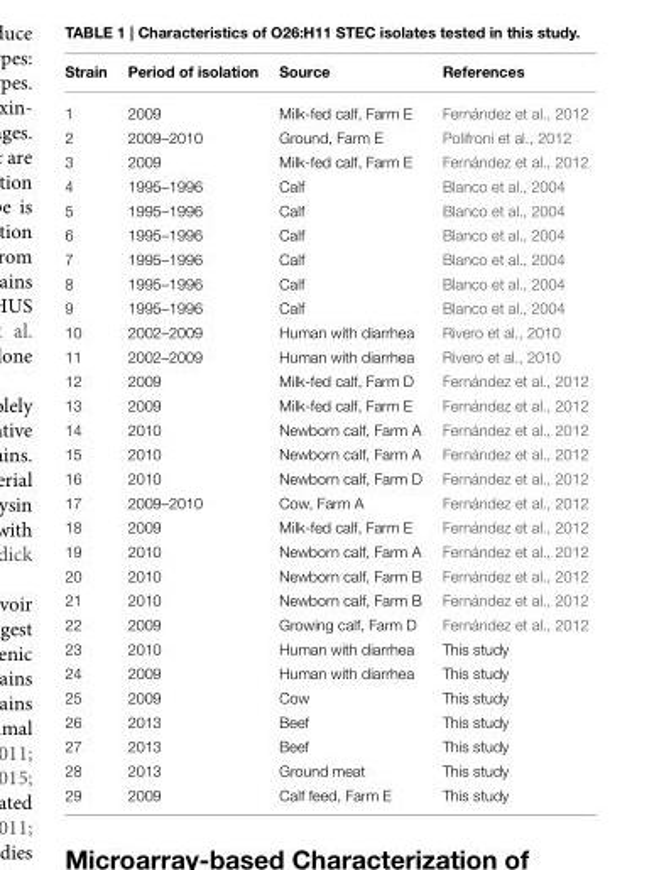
<table><thead><tr><td>Strain</td><td>Period of isolation</td><td>Source</td><td>References</td></tr></thead><tbody><tr><td>1</td><td>2009</td><td>Milk-fed calf, Farm E</td><td>Fernández et al., 2012</td></tr><tr><td>2</td><td>2009–2010</td><td>Ground, Farm E</td><td>Polifroni et al., 2012</td></tr><tr><td>3</td><td>2009</td><td>Milk-fed calf, Farm E</td><td>Fernández et al., 2012</td></tr><tr><td>4</td><td>1995–1996</td><td>Calf</td><td>Blanco et al., 2004</td></tr><tr><td>5</td><td>1995–1996</td><td>Calf</td><td>Blanco et al., 2004</td></tr><tr><td>6</td><td>1995–1996</td><td>Calf</td><td>Blanco et al., 2004</td></tr><tr><td>7</td><td>1995–1996</td><td>Calf</td><td>Blanco et al., 2004</td></tr><tr><td>8</td><td>1995–1996</td><td>Calf</td><td>Blanco et al., 2004</td></tr><tr><td>9</td><td>1995–1996</td><td>Calf</td><td>Blanco et al., 2004</td></tr><tr><td>10</td><td>2002–2009</td><td>Human with diarrhea</td><td>Rivero et al., 2010</td></tr><tr><td>11</td><td>2002–2009</td><td>Human with diarrhea</td><td>Rivero et al., 2010</td></tr><tr><td>12</td><td>2009</td><td>Milk-fed calf, Farm D</td><td>Fernández et al., 2012</td></tr><tr><td>13</td><td>2009</td><td>Milk-fed calf, Farm E</td><td>Fernández et al., 2012</td></tr><tr><td>14</td><td>2010</td><td>Newborn calf, Farm A</td><td>Fernández et al., 2012</td></tr><tr><td>15</td><td>2010</td><td>Newborn calf, Farm A</td><td>Fernández et al., 2012</td></tr><tr><td>16</td><td>2010</td><td>Newborn calf, Farm D</td><td>Fernández et al., 2012</td></tr><tr><td>17</td><td>2009–2010</td><td>Cow, Farm A</td><td>Fernández et al., 2012</td></tr><tr><td>18</td><td>2009</td><td>Milk-fed calf, Farm E</td><td>Fernández et al., 2012</td></tr><tr><td>19</td><td>2010</td><td>Newborn calf, Farm A</td><td>Fernández et al., 2012</td></tr><tr><td>20</td><td>2010</td><td>Newborn calf, Farm B</td><td>Fernández et al., 2012</td></tr><tr><td>21</td><td>2010</td><td>Newborn calf, Farm B</td><td>Fernández et al., 2012</td></tr><tr><td>22</td><td>2009</td><td>Growing calf, Farm D</td><td>Fernández et al., 2012</td></tr><tr><td>23</td><td>2010</td><td>Human with diarrhea</td><td>This study</td></tr><tr><td>24</td><td>2009</td><td>Human with diarrhea</td><td>This study</td></tr><tr><td>25</td><td>2009</td><td>Cow</td><td>This study</td></tr><tr><td>26</td><td>2013</td><td>Beef</td><td>This study</td></tr><tr><td>27</td><td>2013</td><td>Beef</td><td>This study</td></tr><tr><td>28</td><td>2013</td><td>Ground meat</td><td>This study</td></tr><tr><td>29</td><td>2009</td><td>Calf feed, Farm E</td><td>This study</td></tr></tbody></table>